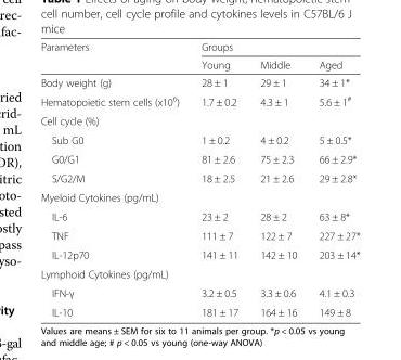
<table><thead><tr><td rowspan="2">Parameters</td><td colspan="3">Groups</td></tr><tr><td>Young</td><td>Middle</td><td>Aged</td></tr></thead><tbody><tr><td>Body weight (g)</td><td>28 ± 1</td><td>29 ± 1</td><td>34 ± 1*</td></tr><tr><td>Hematopoietic stem cells (x10<sup>6</sup>)</td><td>1.7 ± 0.2</td><td>4.3 ± 1</td><td>5.6 ± 1<sup>#</sup></td></tr><tr><td colspan="4">Cell cycle (%)</td></tr><tr><td>Sub G0</td><td>1 ± 0.2</td><td>4 ± 0.2</td><td>5 ± 0.5*</td></tr><tr><td>G0/G1</td><td>81 ± 2.6</td><td>75 ± 2.3</td><td>66 ± 2.9*</td></tr><tr><td>S/G2/M</td><td>18 ± 2.5</td><td>21 ± 2.6</td><td>29 ± 2.8*</td></tr><tr><td colspan="4">Myeloid Cytokines (pg/mL)</td></tr><tr><td>IL-6</td><td>23 ± 2</td><td>28 ± 2</td><td>63 ± 8*</td></tr><tr><td>TNF</td><td>111 ± 7</td><td>122 ± 7</td><td>227 ± 27*</td></tr><tr><td>IL-12p70</td><td>141 ± 11</td><td>142 ± 10</td><td>203 ± 14*</td></tr><tr><td colspan="4">Lymphoid Cytokines (pg/mL)</td></tr><tr><td>IFN-γ</td><td>3.2 ± 0.5</td><td>3.3 ± 0.6</td><td>4.1 ± 0.3</td></tr><tr><td>IL-10</td><td>181 ± 17</td><td>164 ± 16</td><td>149 ± 8</td></tr></tbody></table>